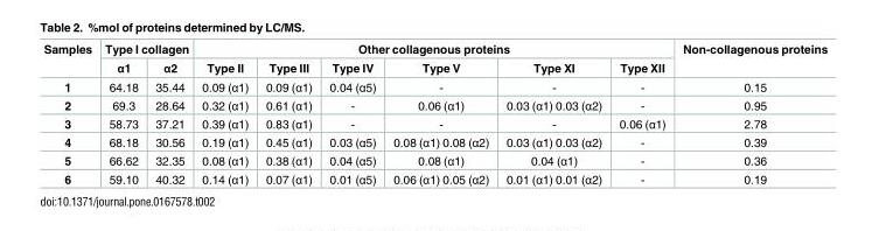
<table><thead><tr><td rowspan="2">Samples</td><td colspan="2">Type I collagen</td><td colspan="6">Other collagenous proteins</td><td rowspan="2">Non-collagenous proteins</td></tr><tr><td>α1</td><td>α2</td><td>Type II</td><td>Type III</td><td>Type IV</td><td>Type V</td><td>Type XI</td><td>Type XII</td></tr></thead><tbody><tr><td>1</td><td>64.18</td><td>35.44</td><td>0.09 (α1)</td><td>0.09 (α1)</td><td>0.04 (α5)</td><td>-</td><td>-</td><td>-</td><td>0.15</td></tr><tr><td>2</td><td>69.3</td><td>28.64</td><td>0.32 (α1)</td><td>0.61 (α1)</td><td>-</td><td>0.06 (α1)</td><td>0.03 (α1) 0.03 (α2)</td><td>-</td><td>0.95</td></tr><tr><td>3</td><td>58.73</td><td>37.21</td><td>0.39 (α1)</td><td>0.83 (α1)</td><td>-</td><td>-</td><td>-</td><td>0.06 (α1)</td><td>2.78</td></tr><tr><td>4</td><td>68.18</td><td>30.56</td><td>0.19 (α1)</td><td>0.45 (α1)</td><td>0.03 (α5)</td><td>0.08 (α1) 0.08 (α2)</td><td>0.03 (α1) 0.03 (α2)</td><td>-</td><td>0.39</td></tr><tr><td>5</td><td>66.62</td><td>32.35</td><td>0.08 (α1)</td><td>0.38 (α1)</td><td>0.04 (α5)</td><td>0.08 (α1)</td><td>0.04 (α1)</td><td>-</td><td>0.36</td></tr><tr><td>6</td><td>59.10</td><td>40.32</td><td>0.14 (α1)</td><td>0.07 (α1)</td><td>0.01 (α5)</td><td>0.06 (α1) 0.05 (α2)</td><td>0.01 (α1) 0.01 (α2)</td><td>-</td><td>0.19</td></tr></tbody></table>